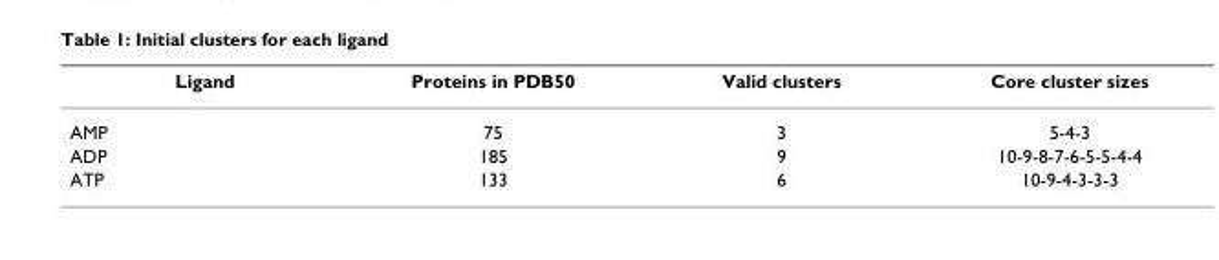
<table><thead><tr><td>Ligand</td><td>Proteins in PDB50</td><td>Valid clusters</td><td>Core cluster sizes</td></tr></thead><tbody><tr><td>AMP</td><td>75</td><td>3</td><td>5-4-3</td></tr><tr><td>ADP</td><td>185</td><td>9</td><td>10-9-8-7-6-5-5-4-4</td></tr><tr><td>ATP</td><td>133</td><td>6</td><td>10-9-4-3-3-3</td></tr></tbody></table>